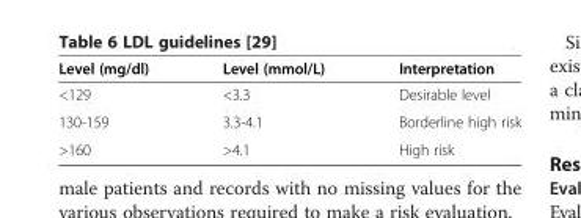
<table><thead><tr><td>Level (mg/dl)</td><td>Level (mmol/L)</td><td>Interpretation</td></tr></thead><tbody><tr><td>&lt;129</td><td>&lt;3.3</td><td>Desirable level</td></tr><tr><td>130-159</td><td>3.3-4.1</td><td>Borderline high risk</td></tr><tr><td>&gt;160</td><td>&gt;4.1</td><td>High risk</td></tr></tbody></table>